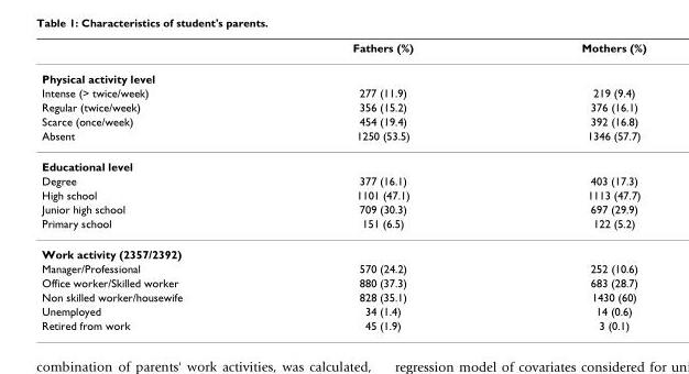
<table><thead><tr><td></td><td>Fathers (%)</td><td>Mothers (%)</td></tr></thead><tbody><tr><td colspan="3">Physical activity level</td></tr><tr><td>Intense (&gt; twice/week)</td><td>277 (11.9)</td><td>219 (9.4)</td></tr><tr><td>Regular (twice/week)</td><td>356 (15.2)</td><td>376 (16.1)</td></tr><tr><td>Scarce (once/week)</td><td>454 (19.4)</td><td>392 (16.8)</td></tr><tr><td>Absent</td><td>1250 (53.5)</td><td>1346 (57.7)</td></tr><tr><td colspan="3">Educational level</td></tr><tr><td>Degree</td><td>377 (16.1)</td><td>403 (17.3)</td></tr><tr><td>High school</td><td>1101 (47.1)</td><td>1113 (47.7)</td></tr><tr><td>Junior high school</td><td>709 (30.3)</td><td>697 (29.9)</td></tr><tr><td>Primary school</td><td>151 (6.5)</td><td>122 (5.2)</td></tr><tr><td colspan="3">Work activity (2357/2392)</td></tr><tr><td>Manager/Professional</td><td>570 (24.2)</td><td>252 (10.6)</td></tr><tr><td>Office worker/Skilled worker</td><td>880 (37.3)</td><td>683 (28.7)</td></tr><tr><td>Non skilled worker/housewife</td><td>828 (35.1)</td><td>1430 (60)</td></tr><tr><td>Unemployed</td><td>34 (1.4)</td><td>14 (0.6)</td></tr><tr><td>Retired from work</td><td>45 (1.9)</td><td>3 (0.1)</td></tr></tbody></table>